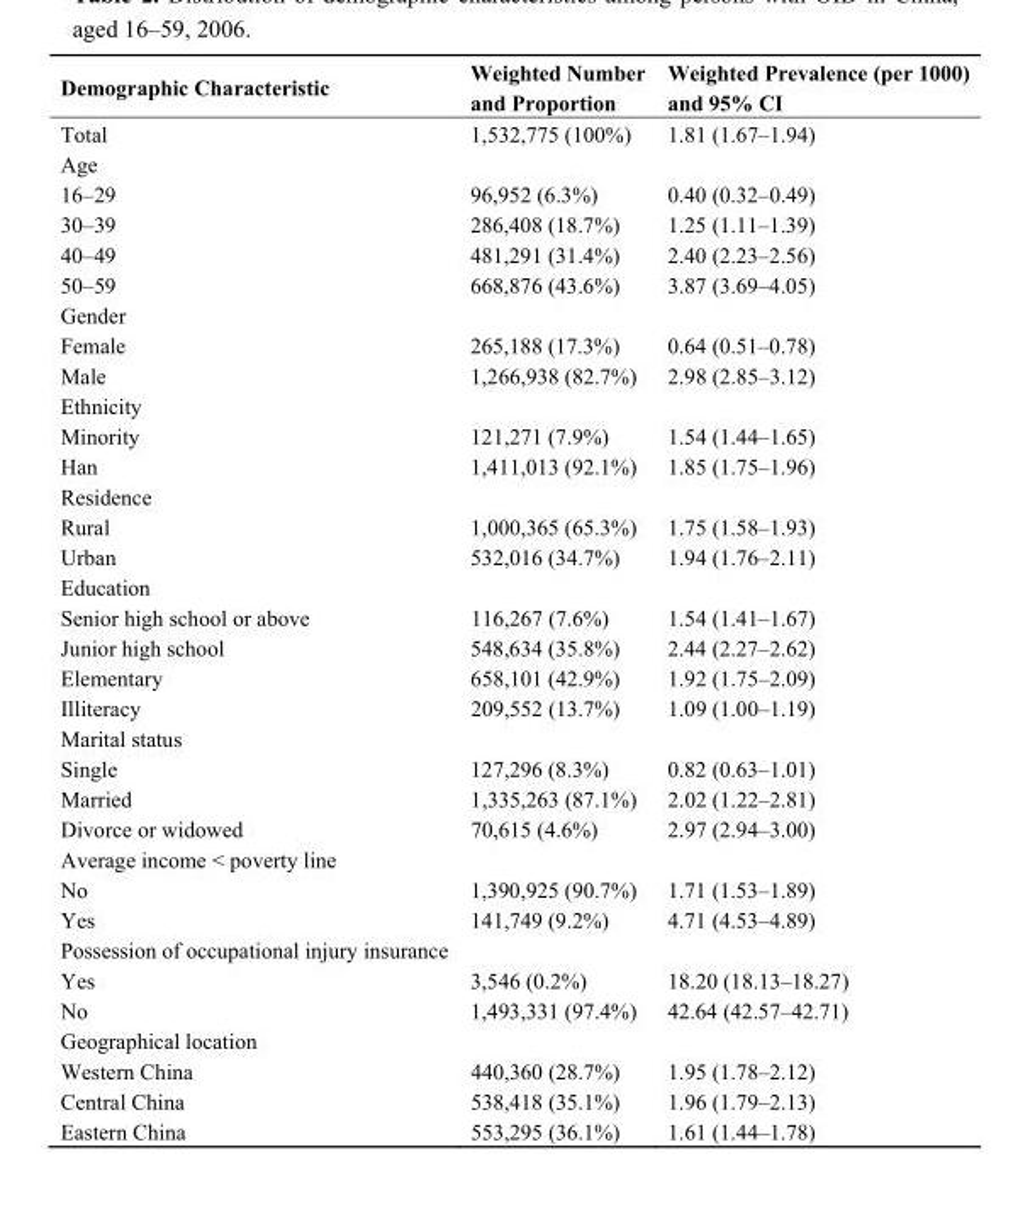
<table><thead><tr><td>Demographic Characteristic</td><td>Weighted Number and Proportion</td><td>Weighted Prevalence (per 1000) and 95% CI</td></tr></thead><tbody><tr><td>Total</td><td>1,532,775 (100%)</td><td>1.81 (1.67–1.94)</td></tr><tr><td colspan="3">Age</td></tr><tr><td>16–29</td><td>96,952 (6.3%)</td><td>0.40 (0.32–0.49)</td></tr><tr><td>30–39</td><td>286,408 (18.7%)</td><td>1.25 (1.11–1.39)</td></tr><tr><td>40–49</td><td>481,291 (31.4%)</td><td>2.40 (2.23–2.56)</td></tr><tr><td>50–59</td><td>668,876 (43.6%)</td><td>3.87 (3.69–4.05)</td></tr><tr><td colspan="3">Gender</td></tr><tr><td>Female</td><td>265,188 (17.3%)</td><td>0.64 (0.51–0.78)</td></tr><tr><td>Male</td><td>1,266,938 (82.7%)</td><td>2.98 (2.85–3.12)</td></tr><tr><td colspan="3">Ethnicity</td></tr><tr><td>Minority</td><td>121,271 (7.9%)</td><td>1.54 (1.44–1.65)</td></tr><tr><td>Han</td><td>1,411,013 (92.1%)</td><td>1.85 (1.75–1.96)</td></tr><tr><td colspan="3">Residence</td></tr><tr><td>Rural</td><td>1,000,365 (65.3%)</td><td>1.75 (1.58–1.93)</td></tr><tr><td>Urban</td><td>532,016 (34.7%)</td><td>1.94 (1.76–2.11)</td></tr><tr><td colspan="3">Education</td></tr><tr><td>Senior high school or above</td><td>116,267 (7.6%)</td><td>1.54 (1.41–1.67)</td></tr><tr><td>Junior high school</td><td>548,634 (35.8%)</td><td>2.44 (2.27–2.62)</td></tr><tr><td>Elementary</td><td>658,101 (42.9%)</td><td>1.92 (1.75–2.09)</td></tr><tr><td>Illiteracy</td><td>209,552 (13.7%)</td><td>1.09 (1.00–1.19)</td></tr><tr><td colspan="3">Marital status</td></tr><tr><td>Single</td><td>127,296 (8.3%)</td><td>0.82 (0.63–1.01)</td></tr><tr><td>Married</td><td>1,335,263 (87.1%)</td><td>2.02 (1.22–2.81)</td></tr><tr><td>Divorce or widowed</td><td>70,615 (4.6%)</td><td>2.97 (2.94–3.00)</td></tr><tr><td colspan="3">Average income &lt; poverty line</td></tr><tr><td>No</td><td>1,390,925 (90.7%)</td><td>1.71 (1.53–1.89)</td></tr><tr><td>Yes</td><td>141,749 (9.2%)</td><td>4.71 (4.53–4.89)</td></tr><tr><td colspan="3">Possession of occupational injury insurance</td></tr><tr><td>Yes</td><td>3,546 (0.2%)</td><td>18.20 (18.13–18.27)</td></tr><tr><td>No</td><td>1,493,331 (97.4%)</td><td>42.64 (42.57–42.71)</td></tr><tr><td colspan="3">Geographical location</td></tr><tr><td>Western China</td><td>440,360 (28.7%)</td><td>1.95 (1.78–2.12)</td></tr><tr><td>Central China</td><td>538,418 (35.1%)</td><td>1.96 (1.79–2.13)</td></tr><tr><td>Eastern China</td><td>553,295 (36.1%)</td><td>1.61 (1.44–1.78)</td></tr></tbody></table>